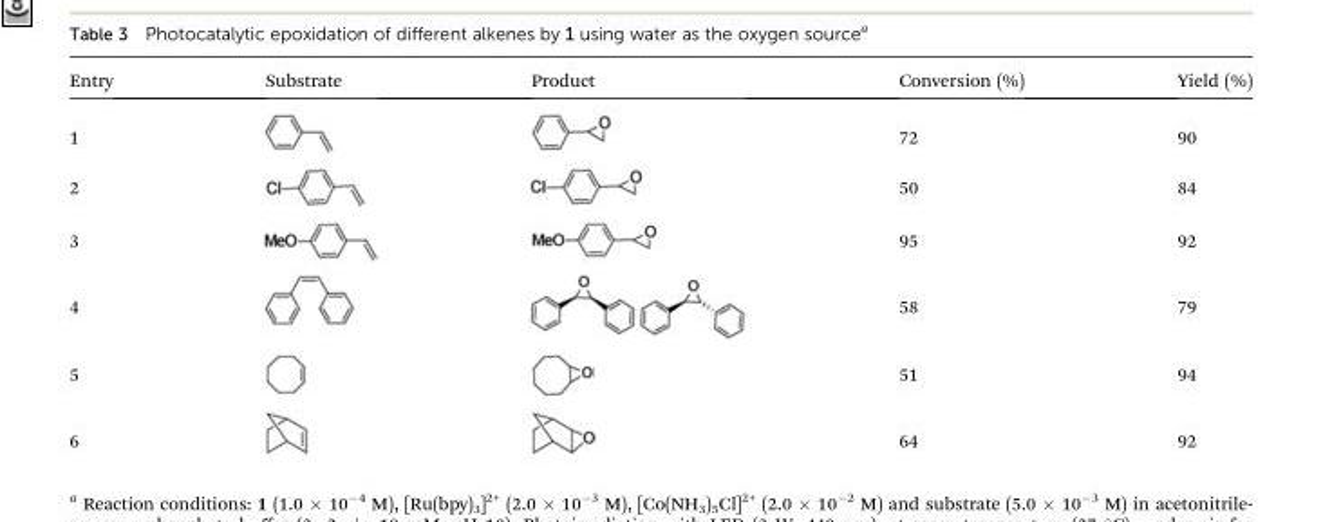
<table><thead><tr><td>Entry</td><td>Substrate</td><td>Product</td><td>Conversion (%)</td><td>Yield (%)</td></tr></thead><tbody><tr><td>1</td><td></td><td></td><td>72</td><td>90</td></tr><tr><td>2</td><td></td><td></td><td>50</td><td>84</td></tr><tr><td>3</td><td></td><td></td><td>95</td><td>92</td></tr><tr><td>4</td><td></td><td></td><td>58</td><td>79</td></tr><tr><td>5</td><td></td><td></td><td>51</td><td>94</td></tr><tr><td>6</td><td></td><td></td><td>64</td><td>92</td></tr></tbody></table>